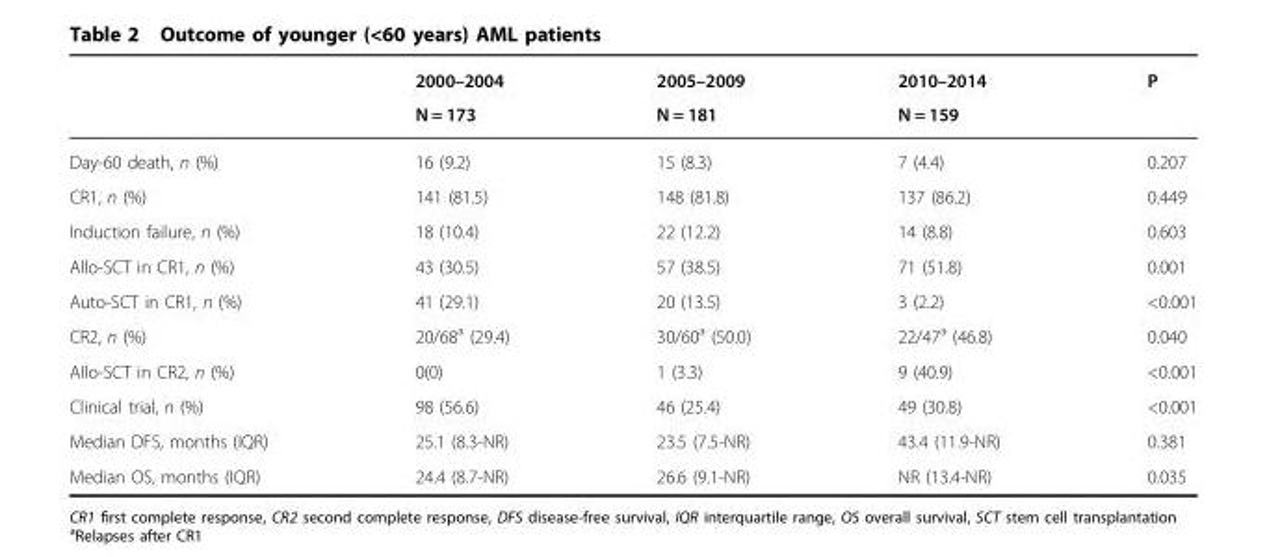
<table><thead><tr><td rowspan="2"></td><td rowspan="2">2000–2004 N = 173</td><td rowspan="2">2005–2009 N = 181</td><td rowspan="2">2010–2014 N = 159</td><td rowspan="2">P</td></tr><tr></tr></thead><tbody><tr><td>Day-60 death, n (%)</td><td>16 (9.2)</td><td>15 (8.3)</td><td>7 (4.4)</td><td>0.207</td></tr><tr><td>CR1, n (%)</td><td>141 (81.5)</td><td>148 (81.8)</td><td>137 (86.2)</td><td>0.449</td></tr><tr><td>Induction failure, n (%)</td><td>18 (10.4)</td><td>22 (12.2)</td><td>14 (8.8)</td><td>0.603</td></tr><tr><td>Allo-SCT in CR1, n (%)</td><td>43 (30.5)</td><td>57 (38.5)</td><td>71 (51.8)</td><td>0.001</td></tr><tr><td>Auto-SCT in CR1, n (%)</td><td>41 (29.1)</td><td>20 (13.5)</td><td>3 (2.2)</td><td>&lt;0.001</td></tr><tr><td>CR2, n (%)</td><td>20/68<sup>a</sup> (29.4)</td><td>30/60<sup>a</sup> (50.0)</td><td>22/47<sup>a</sup> (46.8)</td><td>0.040</td></tr><tr><td>Allo-SCT in CR2, n (%)</td><td>0(0)</td><td>1 (3.3)</td><td>9 (40.9)</td><td>&lt;0.001</td></tr><tr><td>Clinical trial, n (%)</td><td>98 (56.6)</td><td>46 (25.4)</td><td>49 (30.8)</td><td>&lt;0.001</td></tr><tr><td>Median DFS, months (IQR)</td><td>25.1 (8.3-NR)</td><td>23.5 (7.5-NR)</td><td>43.4 (11.9-NR)</td><td>0.381</td></tr><tr><td>Median OS, months (IQR)</td><td>24.4 (8.7-NR)</td><td>26.6 (9.1-NR)</td><td>NR (13.4-NR)</td><td>0.035</td></tr></tbody></table>